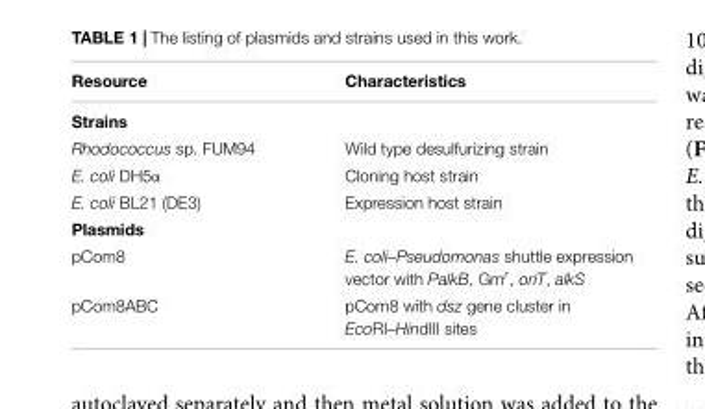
<table><thead><tr><td>Resource</td><td>Characteristics</td></tr></thead><tbody><tr><td colspan="2">Strains</td></tr><tr><td>Rhodococcus sp. FUM94</td><td>Wild type desulfurizing strain</td></tr><tr><td>E. coli DH5α</td><td>Cloning host strain</td></tr><tr><td>E. coli BL21 (DE3)</td><td>Expression host strain</td></tr><tr><td colspan="2">Plasmids</td></tr><tr><td>pCom8</td><td>E. coli–Pseudomonas shuttle expression vector with PalkB, Gm<sup>r</sup>, oriT, alkS</td></tr><tr><td>pCom8ABC</td><td>pCom8 with dsz gene cluster in EcoRI–HindIII sites</td></tr></tbody></table>